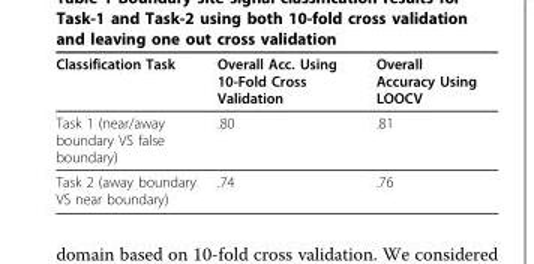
<table><thead><tr><td>Classification Task</td><td>Overall Acc. Using 10-Fold Cross Validation</td><td>Overall Accuracy Using LOOCV</td></tr></thead><tbody><tr><td>Task 1 (near/away boundary VS false boundary)</td><td>.80</td><td>.81</td></tr><tr><td>Task 2 (away boundary VS near boundary)</td><td>.74</td><td>.76</td></tr></tbody></table>